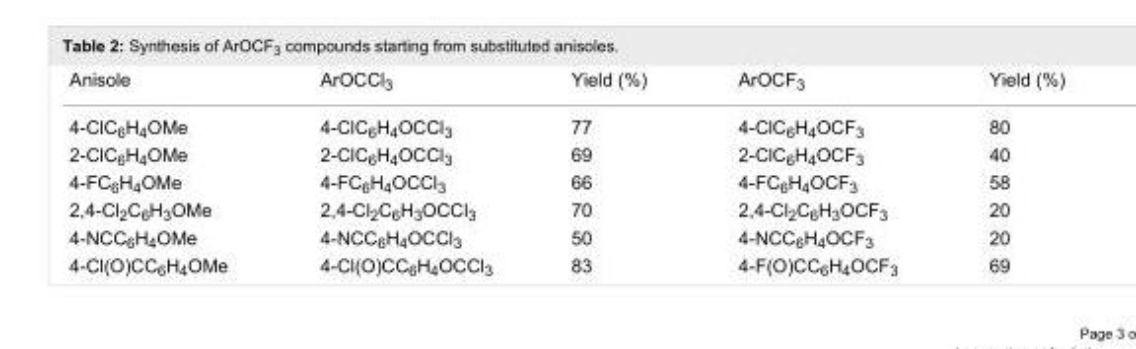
<table><tbody><tr><td>Anisole</td><td>ArOCCl<sub>3</sub></td><td>Yield (%)</td><td>ArOCF<sub>3</sub></td><td>Yield (%)</td></tr><tr><td>4-ClC<sub>6</sub>H<sub>4</sub>OMe</td><td>4-ClC<sub>6</sub>H<sub>4</sub>OCCl<sub>3</sub></td><td>77</td><td>4-ClC<sub>6</sub>H<sub>4</sub>OCF<sub>3</sub></td><td>80</td></tr><tr><td>2-ClC<sub>6</sub>H<sub>4</sub>OMe</td><td>2-ClC<sub>6</sub>H<sub>4</sub>OCCl<sub>3</sub></td><td>69</td><td>2-ClC<sub>6</sub>H<sub>4</sub>OCF<sub>3</sub></td><td>40</td></tr><tr><td>4-FC<sub>6</sub>H<sub>4</sub>OMe</td><td>4-FC<sub>6</sub>H<sub>4</sub>OCCl<sub>3</sub></td><td>66</td><td>4-FC<sub>6</sub>H<sub>4</sub>OCF<sub>3</sub></td><td>58</td></tr><tr><td>2,4-Cl<sub>2</sub>C<sub>6</sub>H<sub>3</sub>OMe</td><td>2,4-Cl<sub>2</sub>C<sub>6</sub>H<sub>3</sub>OCCl<sub>3</sub></td><td>70</td><td>2,4-Cl<sub>2</sub>C<sub>6</sub>H<sub>3</sub>OCF<sub>3</sub></td><td>20</td></tr><tr><td>4-NCC<sub>6</sub>H<sub>4</sub>OMe</td><td>4-NCC<sub>6</sub>H<sub>4</sub>OCCl<sub>3</sub></td><td>50</td><td>4-NCC<sub>6</sub>H<sub>4</sub>OCF<sub>3</sub></td><td>20</td></tr><tr><td>4-Cl(O)CC<sub>6</sub>H<sub>4</sub>OMe</td><td>4-Cl(O)CC<sub>6</sub>H<sub>4</sub>OCCl<sub>3</sub></td><td>83</td><td>4-F(O)CC<sub>6</sub>H<sub>4</sub>OCF<sub>3</sub></td><td>69</td></tr></tbody></table>